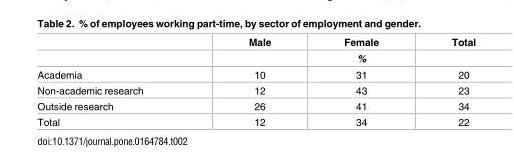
<table><thead><tr><td rowspan="2"></td><td rowspan="2">Male</td><td rowspan="2">Female %</td><td rowspan="2">Total</td></tr><tr></tr></thead><tbody><tr><td>Academia</td><td>10</td><td>31</td><td>20</td></tr><tr><td>Non-academic research</td><td>12</td><td>43</td><td>23</td></tr><tr><td>Outside research</td><td>26</td><td>41</td><td>34</td></tr><tr><td>Total</td><td>12</td><td>34</td><td>22</td></tr></tbody></table>